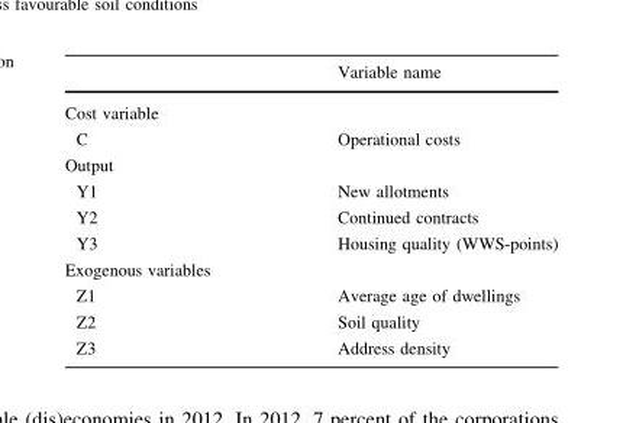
<table><thead><tr><td></td><td>Variable name</td></tr></thead><tbody><tr><td colspan="2">Cost variable</td></tr><tr><td>C</td><td>Operational costs</td></tr><tr><td colspan="2">Output</td></tr><tr><td>Y1</td><td>New allotments</td></tr><tr><td>Y2</td><td>Continued contracts</td></tr><tr><td>Y3</td><td>Housing quality (WWS-points)</td></tr><tr><td colspan="2">Exogenous variables</td></tr><tr><td>Z1</td><td>Average age of dwellings</td></tr><tr><td>Z2</td><td>Soil quality</td></tr><tr><td>Z3</td><td>Address density</td></tr></tbody></table>